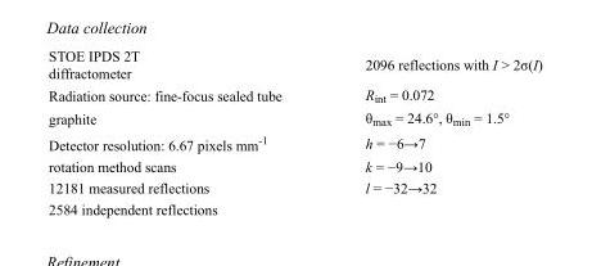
<table><tbody><tr><td>STOE IPDS 2T diffractometer</td><td>2096 reflections with I &gt; 2σ(I)</td></tr><tr><td>Radiation source: fine-focus sealed tube</td><td>R<sub>int</sub> = 0.072</td></tr><tr><td>graphite</td><td>θ<sub>max</sub> = 24.6°, θ<sub>min</sub> = 1.5°</td></tr><tr><td>Detector resolution: 6.67 pixels mm<sup>-1</sup></td><td>h = −6→7</td></tr><tr><td>rotation method scans</td><td>k = −9→10</td></tr><tr><td>12181 measured reflections</td><td>l = −32→32</td></tr><tr><td>2584 independent reflections</td><td></td></tr></tbody></table>